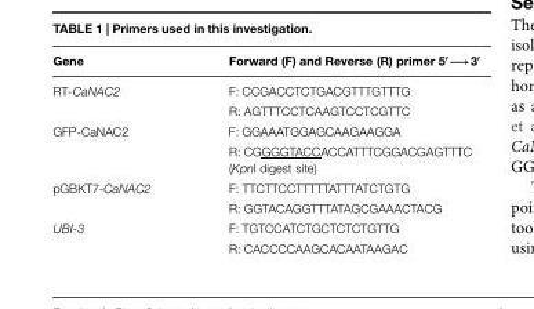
<table><thead><tr><td>Gene</td><td>Forward (F) and Reverse (R) primer 5′−→3′</td></tr></thead><tbody><tr><td rowspan="2">RT-CaNAC2</td><td>F: CCGACCTCTGACGTTTGTTTG</td></tr><tr><td>R: AGTTTCCTCAAGTCCTCGTTC</td></tr><tr><td rowspan="2">GFP-CaNAC2</td><td>F: GGAAATGGAGCAAGAAGGA</td></tr><tr><td>R: CGGGGTACCACCATTTCGGACGAGTTTC (KpnI digest site)</td></tr><tr><td rowspan="2">pGBKT7-CaNAC2</td><td>F: TTCTTCCTTTTTATTTATCTGTG</td></tr><tr><td>R: GGTACAGGTTTATAGCGAAACTACG</td></tr><tr><td rowspan="2">UBI-3</td><td>F: TGTCCATCTGCTCTCTGTTG</td></tr><tr><td>R: CACCCCAAGCACAATAAGAC</td></tr></tbody></table>